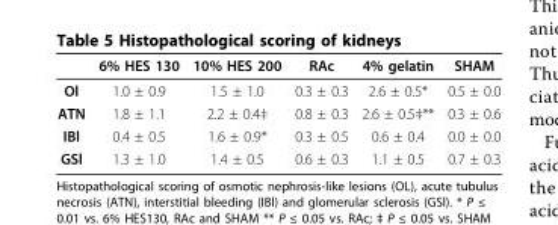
<table><thead><tr><td></td><td>6% HES 130</td><td>10% HES 200</td><td>RAc</td><td>4% gelatin</td><td>SHAM</td></tr></thead><tbody><tr><td>Ol</td><td>1.0 ± 0.9</td><td>1.5 ± 1.0</td><td>0.3 ± 0.3</td><td>2.6 ± 0.5*</td><td>0.5 ± 0.0</td></tr><tr><td>ATN</td><td>1.8 ± 1.1</td><td>2.2 ± 0.4‡</td><td>0.8 ± 0.3</td><td>2.6 ± 0.5‡**</td><td>0.3 ± 0.6</td></tr><tr><td>IBl</td><td>0.4 ± 0.5</td><td>1.6 ± 0.9*</td><td>0.3 ± 0.5</td><td>0.6 ± 0.4</td><td>0.0 ± 0.0</td></tr><tr><td>GSl</td><td>1.3 ± 1.0</td><td>1.4 ± 0.5</td><td>0.6 ± 0.3</td><td>1.1 ± 0.5</td><td>0.7 ± 0.3</td></tr></tbody></table>